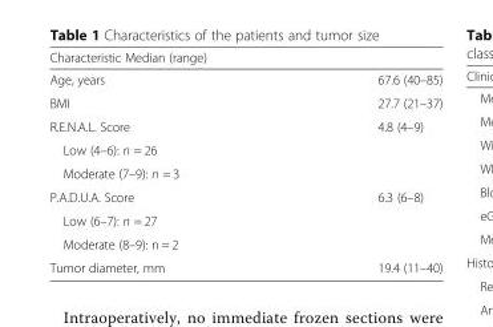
<table><thead><tr><td colspan="2">Characteristic Median (range)</td></tr><tr><td>Age, years</td><td>67.6 (40–85)</td></tr></thead><tbody><tr><td>BMI</td><td>27.7 (21–37)</td></tr><tr><td>R.E.N.A.L. Score</td><td>4.8 (4–9)</td></tr><tr><td colspan="2">Low (4–6): n = 26</td></tr><tr><td colspan="2">Moderate (7–9): n = 3</td></tr><tr><td>P.A.D.U.A. Score</td><td>6.3 (6–8)</td></tr><tr><td colspan="2">Low (6–7): n = 27</td></tr><tr><td colspan="2">Moderate (8–9): n = 2</td></tr><tr><td>Tumor diameter, mm</td><td>19.4 (11–40)</td></tr></tbody></table>